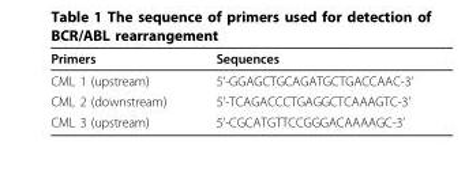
<table><thead><tr><td>Primers</td><td>Sequences</td></tr></thead><tbody><tr><td>CML 1 (upstream)</td><td>5’-GGAGCTGCAGATGCTGACCAAC-3’</td></tr><tr><td>CML 2 (downstream)</td><td>5’-TCAGACCCTGAGGCTCAAAGTC-3’</td></tr><tr><td>CML 3 (upstream)</td><td>5’-CGCATGTTCCGGGACAAAAGC-3’</td></tr></tbody></table>